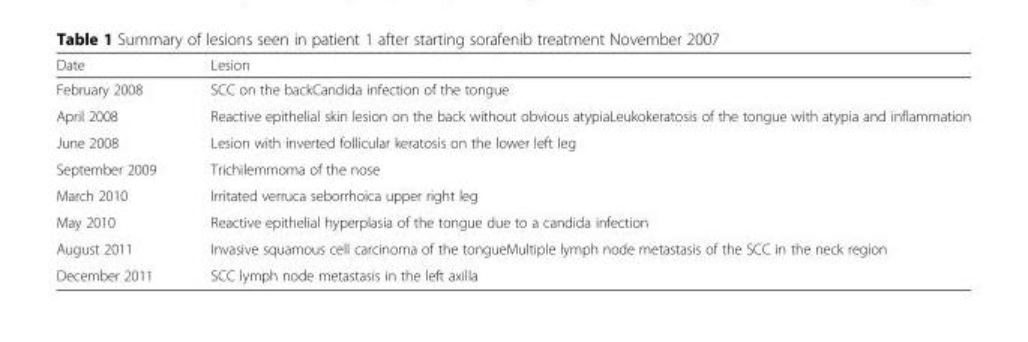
<table><thead><tr><td>Date</td><td>Lesion</td></tr></thead><tbody><tr><td>February 2008</td><td>SCC on the backCandida infection of the tongue</td></tr><tr><td>April 2008</td><td>Reactive epithelial skin lesion on the back without obvious atypiaLeukokeratosis of the tongue with atypia and inflammation</td></tr><tr><td>June 2008</td><td>Lesion with inverted follicular keratosis on the lower left leg</td></tr><tr><td>September 2009</td><td>Trichilemmoma of the nose</td></tr><tr><td>March 2010</td><td>Irritated verruca seborrhoica upper right leg</td></tr><tr><td>May 2010</td><td>Reactive epithelial hyperplasia of the tongue due to a candida infection</td></tr><tr><td>August 2011</td><td>Invasive squamous cell carcinoma of the tongueMultiple lymph node metastasis of the SCC in the neck region</td></tr><tr><td>December 2011</td><td>SCC lymph node metastasis in the left axilla</td></tr></tbody></table>